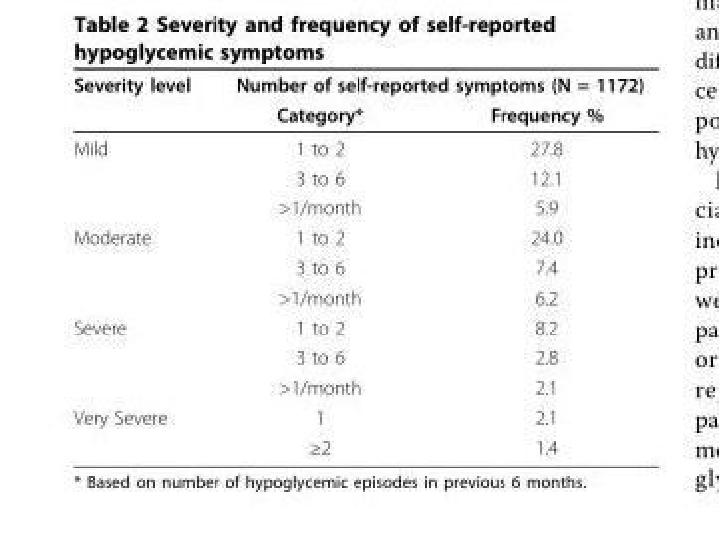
<table><thead><tr><td rowspan="2">Severity level</td><td colspan="2">Number of self-reported symptoms (N = 1172)</td></tr><tr><td>Category*</td><td>Frequency %</td></tr></thead><tbody><tr><td rowspan="3">Mild</td><td>1 to 2</td><td>27.8</td></tr><tr><td>3 to 6</td><td>12.1</td></tr><tr><td>&gt;1/month</td><td>5.9</td></tr><tr><td rowspan="3">Moderate</td><td>1 to 2</td><td>24.0</td></tr><tr><td>3 to 6</td><td>7.4</td></tr><tr><td>&gt;1/month</td><td>6.2</td></tr><tr><td rowspan="3">Severe</td><td>1 to 2</td><td>8.2</td></tr><tr><td>3 to 6</td><td>2.8</td></tr><tr><td>&gt;1/month</td><td>2.1</td></tr><tr><td rowspan="2">Very Severe</td><td>1</td><td>2.1</td></tr><tr><td>≥2</td><td>1.4</td></tr></tbody></table>